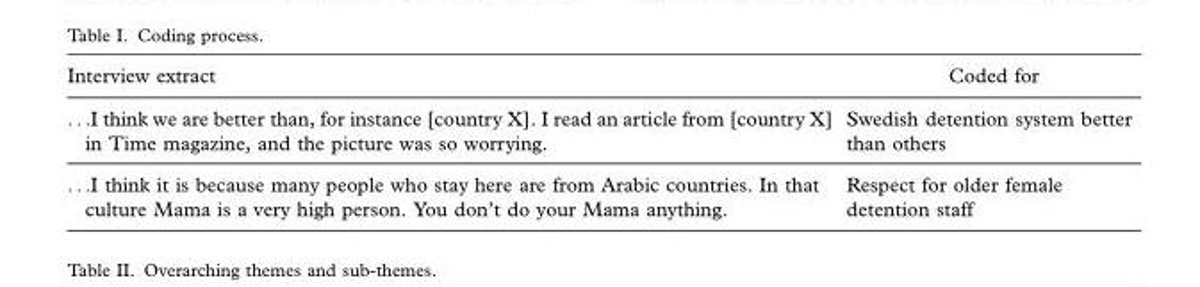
<table><thead><tr><td>Interview extract</td><td>Coded for</td></tr></thead><tbody><tr><td>. . .I think we are better than, for instance [country X]. I read an article from [country X] in Time magazine, and the picture was so worrying.</td><td>Swedish detention system better than others</td></tr><tr><td>. . .I think it is because many people who stay here are from Arabic countries. In that culture Mama is a very high person. You don’t do your Mama anything.</td><td>Respect for older female detention staff</td></tr></tbody></table>